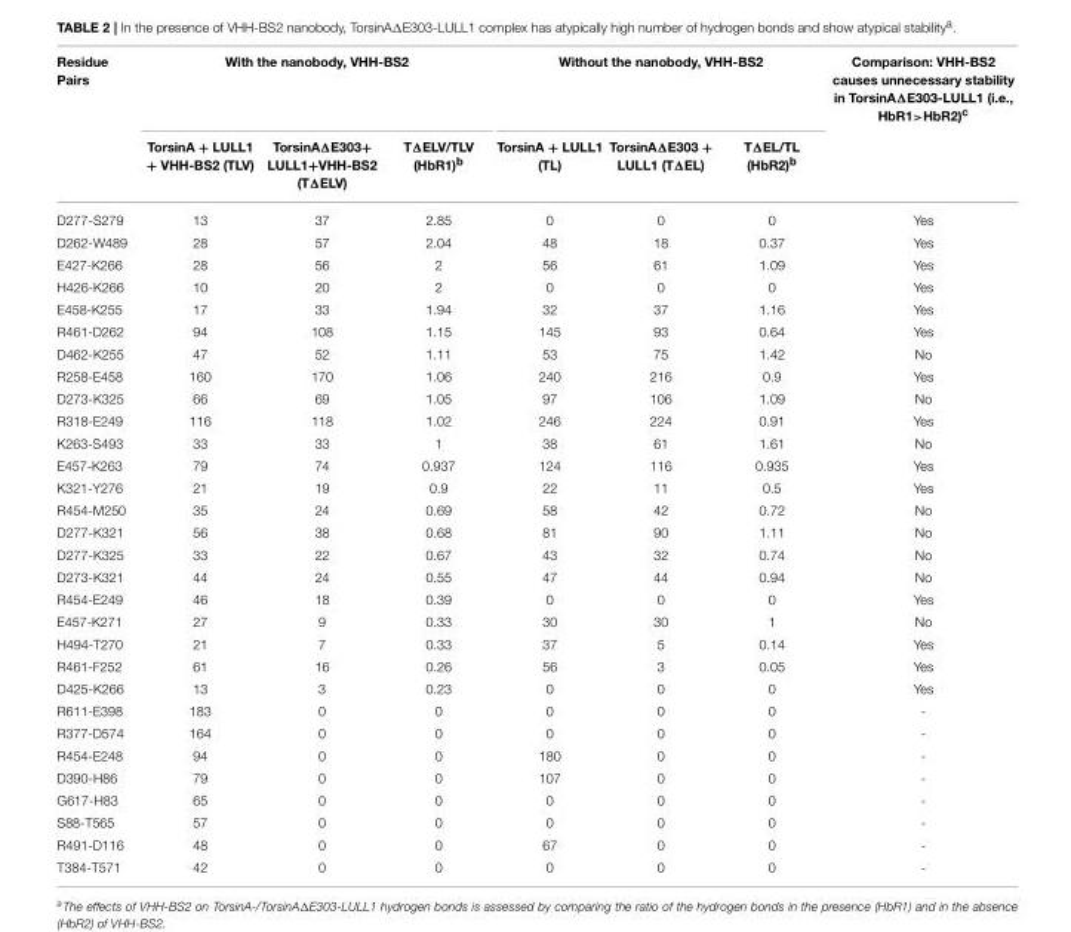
<table><thead><tr><td rowspan="2">Residue Pairs</td><td colspan="3">With the nanobody, VHH-BS2</td><td colspan="3">Without the nanobody, VHH-BS2</td><td rowspan="2">Comparison: VHH-BS2 causes unnecessary stability in TorsinAΔE303-LULL1 (i.e., HbR1&gt;HbR2)<sup>c</sup></td></tr><tr><td>TorsinA + LULL1 + VHH-BS2 (TLV)</td><td>TorsinAΔE303+ LULL1+VHH-BS2 (TΔELV)</td><td>TΔELV/TLV (HbR1)<sup>b</sup></td><td>TorsinA + LULL1 (TL)</td><td>TorsinAΔE303 + LULL1 (TΔEL)</td><td>TΔEL/TL (HbR2)<sup>b</sup></td></tr></thead><tbody><tr><td>D277-S279</td><td>13</td><td>37</td><td>2.85</td><td>0</td><td>0</td><td>0</td><td>Yes</td></tr><tr><td>D262-W489</td><td>28</td><td>57</td><td>2.04</td><td>48</td><td>18</td><td>0.37</td><td>Yes</td></tr><tr><td>E427-K266</td><td>28</td><td>56</td><td>2</td><td>56</td><td>61</td><td>1.09</td><td>Yes</td></tr><tr><td>H426-K266</td><td>10</td><td>20</td><td>2</td><td>0</td><td>0</td><td>0</td><td>Yes</td></tr><tr><td>E458-K255</td><td>17</td><td>33</td><td>1.94</td><td>32</td><td>37</td><td>1.16</td><td>Yes</td></tr><tr><td>R461-D262</td><td>94</td><td>108</td><td>1.15</td><td>145</td><td>93</td><td>0.64</td><td>Yes</td></tr><tr><td>D462-K255</td><td>47</td><td>52</td><td>1.11</td><td>53</td><td>75</td><td>1.42</td><td>No</td></tr><tr><td>R258-E458</td><td>160</td><td>170</td><td>1.06</td><td>240</td><td>216</td><td>0.9</td><td>Yes</td></tr><tr><td>D273-K325</td><td>66</td><td>69</td><td>1.05</td><td>97</td><td>106</td><td>1.09</td><td>No</td></tr><tr><td>R318-E249</td><td>116</td><td>118</td><td>1.02</td><td>246</td><td>224</td><td>0.91</td><td>Yes</td></tr><tr><td>K263-S493</td><td>33</td><td>33</td><td>1</td><td>38</td><td>61</td><td>1.61</td><td>No</td></tr><tr><td>E457-K263</td><td>79</td><td>74</td><td>0.937</td><td>124</td><td>116</td><td>0.935</td><td>Yes</td></tr><tr><td>K321-Y276</td><td>21</td><td>19</td><td>0.9</td><td>22</td><td>11</td><td>0.5</td><td>Yes</td></tr><tr><td>R454-M250</td><td>35</td><td>24</td><td>0.69</td><td>58</td><td>42</td><td>0.72</td><td>No</td></tr><tr><td>D277-K321</td><td>56</td><td>38</td><td>0.68</td><td>81</td><td>90</td><td>1.11</td><td>No</td></tr><tr><td>D277-K325</td><td>33</td><td>22</td><td>0.67</td><td>43</td><td>32</td><td>0.74</td><td>No</td></tr><tr><td>D273-K321</td><td>44</td><td>24</td><td>0.55</td><td>47</td><td>44</td><td>0.94</td><td>No</td></tr><tr><td>R454-E249</td><td>46</td><td>18</td><td>0.39</td><td>0</td><td>0</td><td>0</td><td>Yes</td></tr><tr><td>E457-K271</td><td>27</td><td>9</td><td>0.33</td><td>30</td><td>30</td><td>1</td><td>No</td></tr><tr><td>H494-T270</td><td>21</td><td>7</td><td>0.33</td><td>37</td><td>5</td><td>0.14</td><td>Yes</td></tr><tr><td>R461-F252</td><td>61</td><td>16</td><td>0.26</td><td>56</td><td>3</td><td>0.05</td><td>Yes</td></tr><tr><td>D425-K266</td><td>13</td><td>3</td><td>0.23</td><td>0</td><td>0</td><td>0</td><td>Yes</td></tr><tr><td>R611-E398</td><td>183</td><td>0</td><td>0</td><td>0</td><td>0</td><td>0</td><td>-</td></tr><tr><td>R377-D574</td><td>164</td><td>0</td><td>0</td><td>0</td><td>0</td><td>0</td><td>-</td></tr><tr><td>R454-E248</td><td>94</td><td>0</td><td>0</td><td>180</td><td>0</td><td>0</td><td>-</td></tr><tr><td>D390-H86</td><td>79</td><td>0</td><td>0</td><td>107</td><td>0</td><td>0</td><td>-</td></tr><tr><td>G617-H83</td><td>65</td><td>0</td><td>0</td><td>0</td><td>0</td><td>0</td><td>-</td></tr><tr><td>S88-T565</td><td>57</td><td>0</td><td>0</td><td>0</td><td>0</td><td>0</td><td>-</td></tr><tr><td>R491-D116</td><td>48</td><td>0</td><td>0</td><td>67</td><td>0</td><td>0</td><td>-</td></tr><tr><td>T384-T571</td><td>42</td><td>0</td><td>0</td><td>0</td><td>0</td><td>0</td><td>-</td></tr></tbody></table>